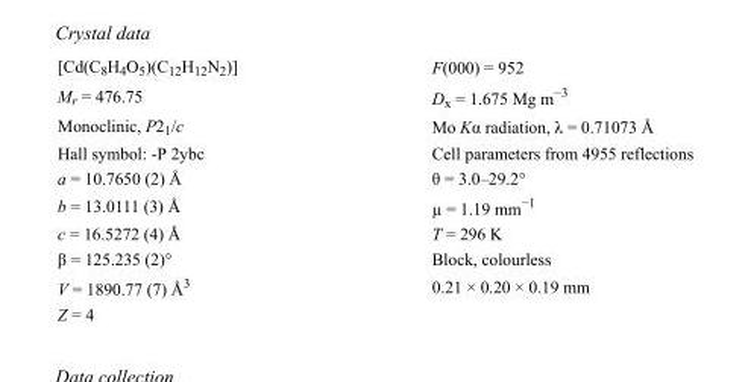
<table><tbody><tr><td>[Cd(C<sub>8</sub>H<sub>4</sub>O<sub>5</sub>)(C<sub>12</sub>H<sub>12</sub>N<sub>2</sub>)]</td><td>F(000) = 952</td></tr><tr><td>M<sub>r</sub> = 476.75</td><td>D<sub>x</sub> = 1.675 Mg m<sup>−3</sup></td></tr><tr><td>Monoclinic, P2<sub>1</sub>/c</td><td>Mo Kα radiation, λ = 0.71073 Å</td></tr><tr><td>Hall symbol: -P 2ybc</td><td>Cell parameters from 4955 reflections</td></tr><tr><td>a = 10.7650 (2) Å</td><td>θ = 3.0–29.2°</td></tr><tr><td>b = 13.0111 (3) Å</td><td>µ = 1.19 mm<sup>−1</sup></td></tr><tr><td>c = 16.5272 (4) Å</td><td>T = 296 K</td></tr><tr><td>β = 125.235 (2)°</td><td>Block, colourless</td></tr><tr><td>V = 1890.77 (7) Å<sup>3</sup></td><td>0.21 × 0.20 × 0.19 mm</td></tr><tr><td>Z = 4</td><td></td></tr></tbody></table>